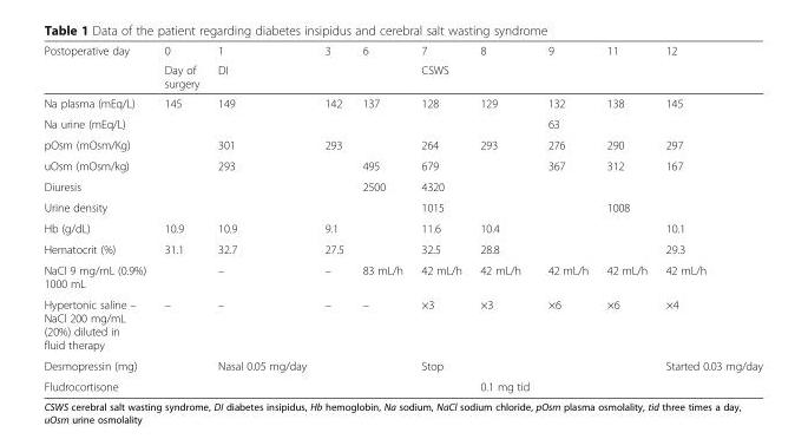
<table><thead><tr><td rowspan="2">Postoperative day</td><td rowspan="2">0 Day of surgery</td><td>1</td><td>3</td><td>6</td><td>7</td><td>8</td><td>9</td><td>11</td><td>12</td></tr><tr><td colspan="3">DI</td><td colspan="5">CSWS</td></tr></thead><tbody><tr><td>Na plasma (mEq/L)</td><td>145</td><td>149</td><td>142</td><td>137</td><td>128</td><td>129</td><td>132</td><td>138</td><td>145</td></tr><tr><td>Na urine (mEq/L)</td><td></td><td></td><td></td><td></td><td></td><td></td><td>63</td><td></td><td></td></tr><tr><td>pOsm (mOsm/Kg)</td><td></td><td>301</td><td>293</td><td></td><td>264</td><td>293</td><td>276</td><td>290</td><td>297</td></tr><tr><td>uOsm (mOsm/kg)</td><td></td><td>293</td><td></td><td>495</td><td>679</td><td></td><td>367</td><td>312</td><td>167</td></tr><tr><td>Diuresis</td><td></td><td></td><td></td><td>2500</td><td>4320</td><td></td><td></td><td></td><td></td></tr><tr><td>Urine density</td><td></td><td></td><td></td><td></td><td>1015</td><td></td><td></td><td>1008</td><td></td></tr><tr><td>Hb (g/dL)</td><td>10.9</td><td>10.9</td><td>9.1</td><td></td><td>11.6</td><td>10.4</td><td></td><td></td><td>10.1</td></tr><tr><td>Hematocrit (%)</td><td>31.1</td><td>32.7</td><td>27.5</td><td></td><td>32.5</td><td>28.8</td><td></td><td></td><td>29.3</td></tr><tr><td>NaCl 9 mg/mL (0.9%) 1000 mL</td><td></td><td>–</td><td>–</td><td>83 mL/h</td><td>42 mL/h</td><td>42 mL/h</td><td>42 mL/h</td><td>42 mL/h</td><td>42 mL/h</td></tr><tr><td>Hypertonic saline – NaCl 200 mg/mL (20%) diluted in fluid therapy</td><td>–</td><td>–</td><td>–</td><td>–</td><td>×3</td><td>×3</td><td>×6</td><td>×6</td><td>×4</td></tr><tr><td>Desmopressin (mg)</td><td></td><td>Nasal 0.05 mg/day</td><td></td><td></td><td>Stop</td><td></td><td></td><td></td><td>Started 0.03 mg/day</td></tr><tr><td>Fludrocortisone</td><td></td><td></td><td></td><td></td><td></td><td>0.1 mg tid</td><td></td><td></td><td></td></tr></tbody></table>